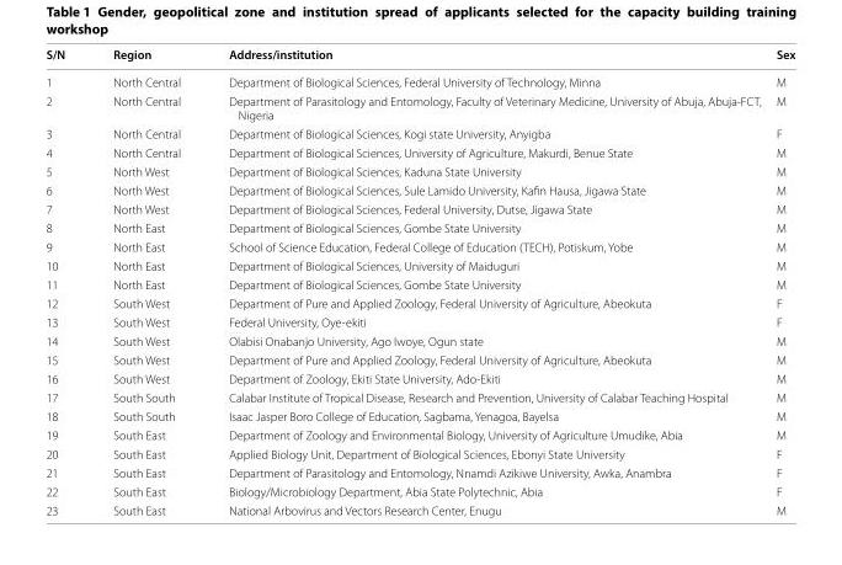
<table><thead><tr><td>S/N</td><td>Region</td><td>Address/institution</td><td>Sex</td></tr></thead><tbody><tr><td>1</td><td>North Central</td><td>Department of Biological Sciences, Federal University of Technology, Minna</td><td>M</td></tr><tr><td>2</td><td>North Central</td><td>Department of Parasitology and Entomology, Faculty of Veterinary Medicine, University of Abuja, Abuja-FCT, Nigeria</td><td>M</td></tr><tr><td>3</td><td>North Central</td><td>Department of Biological Sciences, Kogi state University, Anyigba</td><td>F</td></tr><tr><td>4</td><td>North Central</td><td>Department of Biological Sciences, University of Agriculture, Makurdi, Benue State</td><td>M</td></tr><tr><td>5</td><td>North West</td><td>Department of Biological Sciences, Kaduna State University</td><td>M</td></tr><tr><td>6</td><td>North West</td><td>Department of Biological Sciences, Sule Lamido University, Kafin Hausa, Jigawa State</td><td>M</td></tr><tr><td>7</td><td>North West</td><td>Department of Biological Sciences, Federal University, Dutse, Jigawa State</td><td>M</td></tr><tr><td>8</td><td>North East</td><td>Department of Biological Sciences, Gombe State University</td><td>M</td></tr><tr><td>9</td><td>North East</td><td>School of Science Education, Federal College of Education (TECH), Potiskum, Yobe</td><td>M</td></tr><tr><td>10</td><td>North East</td><td>Department of Biological Sciences, University of Maiduguri</td><td>M</td></tr><tr><td>11</td><td>North East</td><td>Department of Biological Sciences, Gombe State University</td><td>M</td></tr><tr><td>12</td><td>South West</td><td>Department of Pure and Applied Zoology, Federal University of Agriculture, Abeokuta</td><td>F</td></tr><tr><td>13</td><td>South West</td><td>Federal University, Oye-ekiti</td><td>F</td></tr><tr><td>14</td><td>South West</td><td>Olabisi Onabanjo University, Ago Iwoye, Ogun state</td><td>M</td></tr><tr><td>15</td><td>South West</td><td>Department of Pure and Applied Zoology, Federal University of Agriculture, Abeokuta</td><td>M</td></tr><tr><td>16</td><td>South West</td><td>Department of Zoology, Ekiti State University, Ado-Ekiti</td><td>M</td></tr><tr><td>17</td><td>South South</td><td>Calabar Institute of Tropical Disease, Research and Prevention, University of Calabar Teaching Hospital</td><td>M</td></tr><tr><td>18</td><td>South South</td><td>Isaac Jasper Boro College of Education, Sagbama, Yenagoa, Bayelsa</td><td>M</td></tr><tr><td>19</td><td>South East</td><td>Department of Zoology and Environmental Biology, University of Agriculture Umudike, Abia</td><td>M</td></tr><tr><td>20</td><td>South East</td><td>Applied Biology Unit, Department of Biological Sciences, Ebonyi State University</td><td>F</td></tr><tr><td>21</td><td>South East</td><td>Department of Parasitology and Entomology, Nnamdi Azikiwe University, Awka, Anambra</td><td>F</td></tr><tr><td>22</td><td>South East</td><td>Biology/Microbiology Department, Abia State Polytechnic, Abia</td><td>F</td></tr><tr><td>23</td><td>South East</td><td>National Arbovirus and Vectors Research Center, Enugu</td><td>M</td></tr></tbody></table>